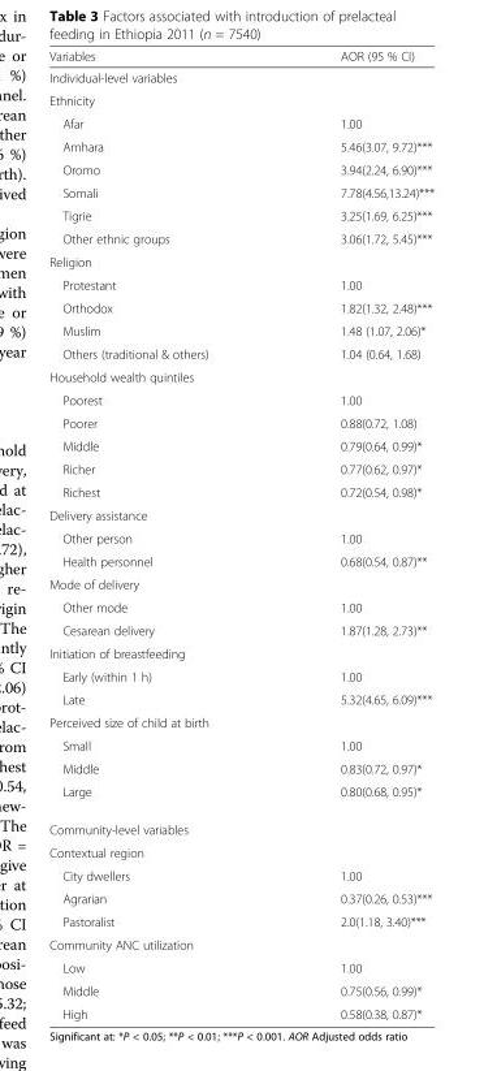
<table><thead><tr><td>Variables</td><td>AOR (95 % CI)</td></tr></thead><tbody><tr><td colspan="2">Individual-level variables</td></tr><tr><td colspan="2">Ethnicity</td></tr><tr><td>Afar</td><td>1.00</td></tr><tr><td>Amhara</td><td>5.46(3.07, 9.72)***</td></tr><tr><td>Oromo</td><td>3.94(2.24, 6.90)***</td></tr><tr><td>Somali</td><td>7.78(4.56,13.24)***</td></tr><tr><td>Tigrie</td><td>3.25(1.69, 6.25)***</td></tr><tr><td>Other ethnic groups</td><td>3.06(1.72, 5.45)***</td></tr><tr><td colspan="2">Religion</td></tr><tr><td>Protestant</td><td>1.00</td></tr><tr><td>Orthodox</td><td>1.82(1.32, 2.48)***</td></tr><tr><td>Muslim</td><td>1.48 (1.07, 2.06)*</td></tr><tr><td>Others (traditional &amp; others)</td><td>1.04 (0.64, 1.68)</td></tr><tr><td colspan="2">Household wealth quintiles</td></tr><tr><td>Poorest</td><td>1.00</td></tr><tr><td>Poorer</td><td>0.88(0.72, 1.08)</td></tr><tr><td>Middle</td><td>0.79(0.64, 0.99)*</td></tr><tr><td>Richer</td><td>0.77(0.62, 0.97)*</td></tr><tr><td>Richest</td><td>0.72(0.54, 0.98)*</td></tr><tr><td colspan="2">Delivery assistance</td></tr><tr><td>Other person</td><td>1.00</td></tr><tr><td>Health personnel</td><td>0.68(0.54, 0.87)**</td></tr><tr><td colspan="2">Mode of delivery</td></tr><tr><td>Other mode</td><td>1.00</td></tr><tr><td>Cesarean delivery</td><td>1.87(1.28, 2.73)**</td></tr><tr><td colspan="2">Initiation of breastfeeding</td></tr><tr><td>Early (within 1 h)</td><td>1.00</td></tr><tr><td>Late</td><td>5.32(4.65, 6.09)***</td></tr><tr><td colspan="2">Perceived size of child at birth</td></tr><tr><td>Small</td><td>1.00</td></tr><tr><td>Middle</td><td>0.83(0.72, 0.97)*</td></tr><tr><td>Large</td><td>0.80(0.68, 0.95)*</td></tr><tr><td colspan="2">Community-level variables</td></tr><tr><td colspan="2">Contextual region</td></tr><tr><td>City dwellers</td><td>1.00</td></tr><tr><td>Agrarian</td><td>0.37(0.26, 0.53)***</td></tr><tr><td>Pastoralist</td><td>2.0(1.18, 3.40)***</td></tr><tr><td colspan="2">Community ANC utilization</td></tr><tr><td>Low</td><td>1.00</td></tr><tr><td>Middle</td><td>0.75(0.56, 0.99)*</td></tr><tr><td>High</td><td>0.58(0.38, 0.87)*</td></tr></tbody></table>